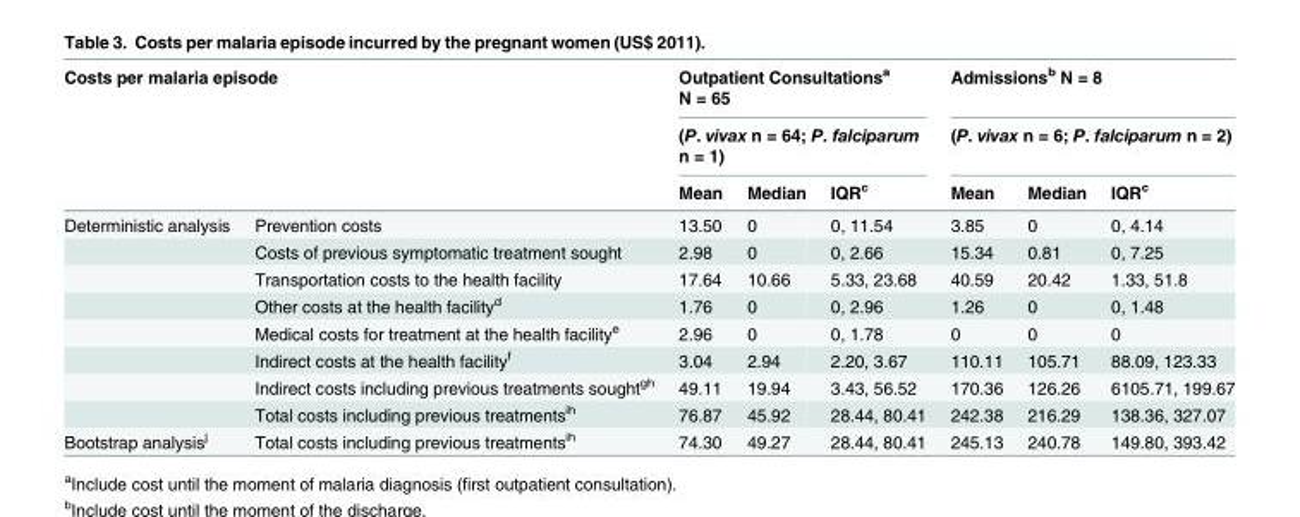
<table><thead><tr><td colspan="2">Costs per malaria episode</td><td rowspan="2" colspan="3">Outpatient Consultations<sup>a</sup> N = 65 (P. vivax n = 64; P. falciparum n = 1)</td><td rowspan="2" colspan="3">Admissions<sup>b</sup> N = 8 (P. vivax n = 6; P. falciparum n = 2)</td></tr><tr><td rowspan="2"></td><td rowspan="2"></td></tr><tr><td>Mean</td><td>Median</td><td>IQR<sup>c</sup></td><td>Mean</td><td>Median</td><td>IQR<sup>c</sup></td></tr></thead><tbody><tr><td rowspan="8">Deterministic analysis</td><td>Prevention costs</td><td>13.50</td><td>0</td><td>0, 11.54</td><td>3.85</td><td>0</td><td>0, 4.14</td></tr><tr><td>Costs of previous symptomatic treatment sought</td><td>2.98</td><td>0</td><td>0, 2.66</td><td>15.34</td><td>0.81</td><td>0, 7.25</td></tr><tr><td>Transportation costs to the health facility</td><td>17.64</td><td>10.66</td><td>5.33, 23.68</td><td>40.59</td><td>20.42</td><td>1.33, 51.8</td></tr><tr><td>Other costs at the health facility<sup>d</sup></td><td>1.76</td><td>0</td><td>0, 2.96</td><td>1.26</td><td>0</td><td>0, 1.48</td></tr><tr><td>Medical costs for treatment at the health facility<sup>e</sup></td><td>2.96</td><td>0</td><td>0, 1.78</td><td>0</td><td>0</td><td>0</td></tr><tr><td>Indirect costs at the health facility<sup>f</sup></td><td>3.04</td><td>2.94</td><td>2.20, 3.67</td><td>110.11</td><td>105.71</td><td>88.09, 123.33</td></tr><tr><td>Indirect costs including previous treatments sought<sup>gh</sup></td><td>49.11</td><td>19.94</td><td>3.43, 56.52</td><td>170.36</td><td>126.26</td><td>6105.71, 199.67</td></tr><tr><td>Total costs including previous treatments<sup>ih</sup></td><td>76.87</td><td>45.92</td><td>28.44, 80.41</td><td>242.38</td><td>216.29</td><td>138.36, 327.07</td></tr><tr><td>Bootstrap analysis<sup>j</sup></td><td>Total costs including previous treatments<sup>ih</sup></td><td>74.30</td><td>49.27</td><td>28.44, 80.41</td><td>245.13</td><td>240.78</td><td>149.80, 393.42</td></tr></tbody></table>